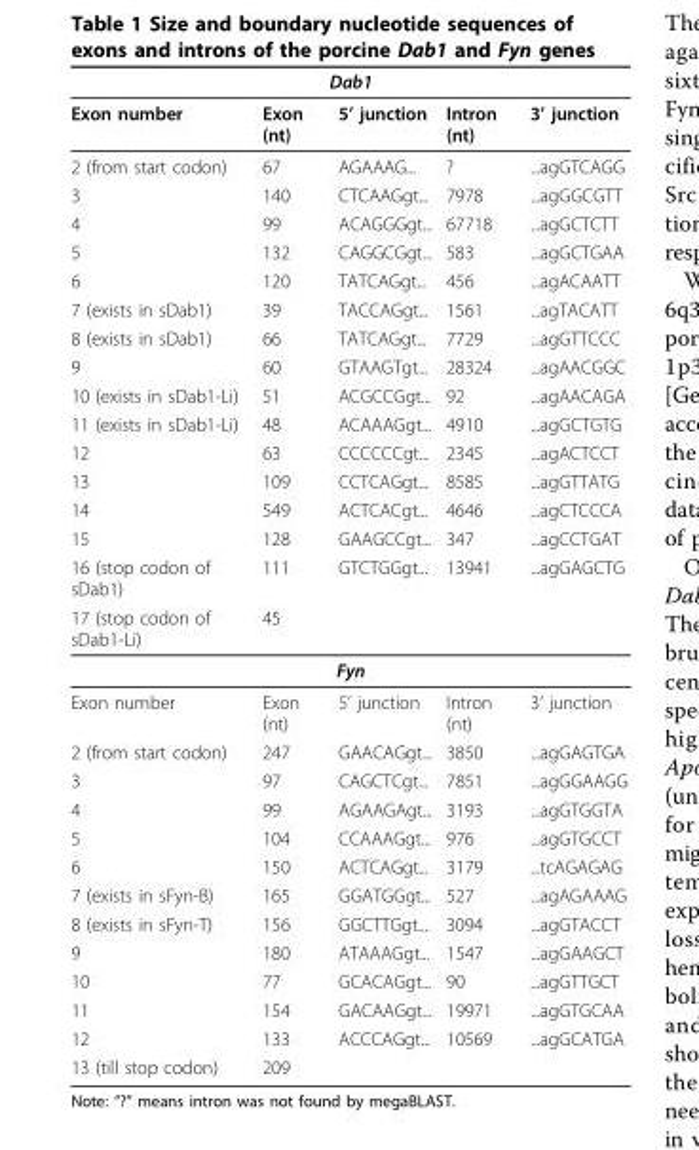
<table><thead><tr><td colspan="5">Dab1</td></tr><tr><td>Exon number</td><td>Exon (nt)</td><td>5’ junction</td><td>Intron (nt)</td><td>3’ junction</td></tr></thead><tbody><tr><td>2 (from start codon)</td><td>67</td><td>AGAAAG...</td><td>?</td><td>...agGTCAGG</td></tr><tr><td>3</td><td>140</td><td>CTCAAGgt...</td><td>7978</td><td>...agGGCGTT</td></tr><tr><td>4</td><td>99</td><td>ACAGGGgt...</td><td>67718</td><td>...agGCTCTT</td></tr><tr><td>5</td><td>132</td><td>CAGGCGgt...</td><td>583</td><td>...agGCTGAA</td></tr><tr><td>6</td><td>120</td><td>TATCAGgt...</td><td>456</td><td>...agACAATT</td></tr><tr><td>7 (exists in sDab1)</td><td>39</td><td>TACCAGgt...</td><td>1561</td><td>...agTACATT</td></tr><tr><td>8 (exists in sDab1)</td><td>66</td><td>TATCAGgt...</td><td>7729</td><td>...agGTTCCC</td></tr><tr><td>9</td><td>60</td><td>GTAAGTgt...</td><td>28324</td><td>...agAACGGC</td></tr><tr><td>10 (exists in sDab1-Li)</td><td>51</td><td>ACGCCGgt...</td><td>92</td><td>...agAACAGA</td></tr><tr><td>11 (exists in sDab1-Li)</td><td>48</td><td>ACAAAGgt...</td><td>4910</td><td>...agGCTGTG</td></tr><tr><td>12</td><td>63</td><td>CCCCCCgt...</td><td>2345</td><td>...agACTCCT</td></tr><tr><td>13</td><td>109</td><td>CCTCAGgt...</td><td>8585</td><td>...agGTTATG</td></tr><tr><td>14</td><td>549</td><td>ACTCACgt...</td><td>4646</td><td>...agCTCCCA</td></tr><tr><td>15</td><td>128</td><td>GAAGCCgt...</td><td>347</td><td>...agCCTGAT</td></tr><tr><td>16 (stop codon of sDab1)</td><td>111</td><td>GTCTGGgt...</td><td>13941</td><td>...agGAGCTG</td></tr><tr><td>17 (stop codon of sDab1-Li)</td><td>45</td><td></td><td></td><td></td></tr><tr><td colspan="5">Fyn</td></tr><tr><td>Exon number</td><td>Exon (nt)</td><td>5’ junction</td><td>Intron (nt)</td><td>3’ junction</td></tr><tr><td>2 (from start codon)</td><td>247</td><td>GAACAGgt...</td><td>3850</td><td>...agGAGTGA</td></tr><tr><td>3</td><td>97</td><td>CAGCTCgt...</td><td>7851</td><td>...agGGAAGG</td></tr><tr><td>4</td><td>99</td><td>AGAAGAgt...</td><td>3193</td><td>...agGTGGTA</td></tr><tr><td>5</td><td>104</td><td>CCAAAGgt...</td><td>976</td><td>...agGTGCCT</td></tr><tr><td>6</td><td>150</td><td>ACTCAGgt...</td><td>3179</td><td>...tcAGAGAG</td></tr><tr><td>7 (exists in sFyn-B)</td><td>165</td><td>GGATGGgt...</td><td>527</td><td>...agAGAAAG</td></tr><tr><td>8 (exists in sFyn-T)</td><td>156</td><td>GGCTTGgt...</td><td>3094</td><td>...agGTACCT</td></tr><tr><td>9</td><td>180</td><td>ATAAAGgt...</td><td>1547</td><td>...agGAAGCT</td></tr><tr><td>10</td><td>77</td><td>GCACAGgt...</td><td>90</td><td>...agGTTGCT</td></tr><tr><td>11</td><td>154</td><td>GACAAGgt...</td><td>19971</td><td>...agGTGCAA</td></tr><tr><td>12</td><td>133</td><td>ACCCAGgt...</td><td>10569</td><td>...agGCATGA</td></tr><tr><td>13 (till stop codon)</td><td>209</td><td></td><td></td><td></td></tr></tbody></table>